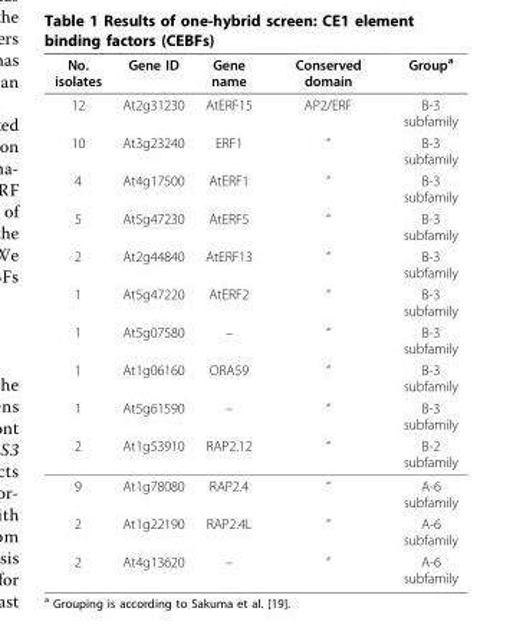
<table><thead><tr><td>No. isolates</td><td>Gene ID</td><td>Gene name</td><td>Conserved domain</td><td>Group<sup>a</sup></td></tr></thead><tbody><tr><td>12</td><td>At2g31230</td><td>AtERF15</td><td>AP2/ERF</td><td>B-3 subfamily</td></tr><tr><td>10</td><td>At3g23240</td><td>ERF1</td><td>“</td><td>B-3 subfamily</td></tr><tr><td>4</td><td>At4g17500</td><td>AtERF1</td><td>“</td><td>B-3 subfamily</td></tr><tr><td>5</td><td>At5g47230</td><td>AtERF5</td><td>“</td><td>B-3 subfamily</td></tr><tr><td>2</td><td>At2g44840</td><td>AtERF13</td><td>“</td><td>B-3 subfamily</td></tr><tr><td>1</td><td>At5g47220</td><td>AtERF2</td><td>“</td><td>B-3 subfamily</td></tr><tr><td>1</td><td>At5g07580</td><td>–</td><td>“</td><td>B-3 subfamily</td></tr><tr><td>1</td><td>At1g06160</td><td>ORA59</td><td>“</td><td>B-3 subfamily</td></tr><tr><td>1</td><td>At5g61590</td><td>–</td><td>“</td><td>B-3 subfamily</td></tr><tr><td>2</td><td>At1g53910</td><td>RAP2.12</td><td>“</td><td>B-2 subfamily</td></tr><tr><td>9</td><td>At1g78080</td><td>RAP2.4</td><td>“</td><td>A-6 subfamily</td></tr><tr><td>2</td><td>At1g22190</td><td>RAP2.4L</td><td>“</td><td>A-6 subfamily</td></tr><tr><td>2</td><td>At4g13620</td><td>–</td><td>“</td><td>A-6 subfamily</td></tr></tbody></table>